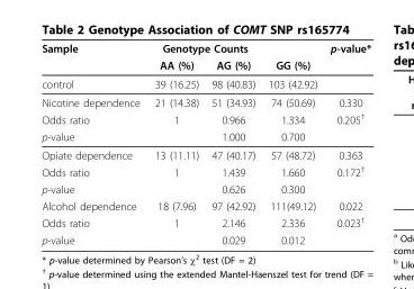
<table><thead><tr><td rowspan="2">Sample</td><td colspan="2">Genotype Counts</td><td rowspan="2">GG (%)</td><td rowspan="2">p-value*</td></tr><tr><td>AA (%)</td><td>AG (%)</td></tr></thead><tbody><tr><td>control</td><td>39 (16.25)</td><td>98 (40.83)</td><td>103 (42.92)</td><td></td></tr><tr><td>Nicotine dependence</td><td>21 (14.38)</td><td>51 (34.93)</td><td>74 (50.69)</td><td>0.330</td></tr><tr><td>Odds ratio</td><td>1</td><td>0.966</td><td>1.334</td><td>0.205<sup>†</sup></td></tr><tr><td>p-value</td><td></td><td>1.000</td><td>0.700</td><td></td></tr><tr><td>Opiate dependence</td><td>13 (11.11)</td><td>47 (40.17)</td><td>57 (48.72)</td><td>0.363</td></tr><tr><td>Odds ratio</td><td>1</td><td>1.439</td><td>1.660</td><td>0.172<sup>†</sup></td></tr><tr><td>p-value</td><td></td><td>0.626</td><td>0.300</td><td></td></tr><tr><td>Alcohol dependence</td><td>18 (7.96)</td><td>97 (42.92)</td><td>111(49.12)</td><td>0.022</td></tr><tr><td>Odds ratio</td><td>1</td><td>2.146</td><td>2.336</td><td>0.023<sup>†</sup></td></tr><tr><td>p-value</td><td></td><td>0.029</td><td>0.012</td><td></td></tr></tbody></table>